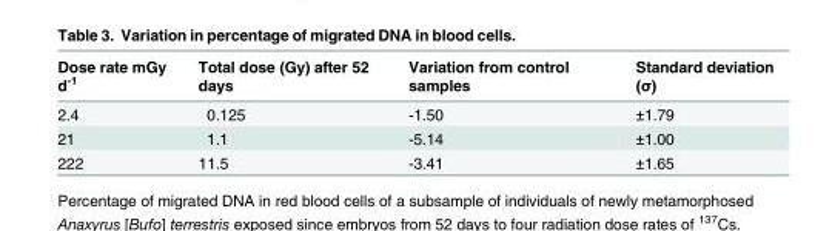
<table><thead><tr><td>Dose rate mGy d<sup>-1</sup></td><td>Total dose (Gy) after 52 days</td><td>Variation from control samples</td><td>Standard deviation (σ)</td></tr></thead><tbody><tr><td>2.4</td><td>0.125</td><td>-1.50</td><td>±1.79</td></tr><tr><td>21</td><td>1.1</td><td>-5.14</td><td>±1.00</td></tr><tr><td>222</td><td>11.5</td><td>-3.41</td><td>±1.65</td></tr></tbody></table>